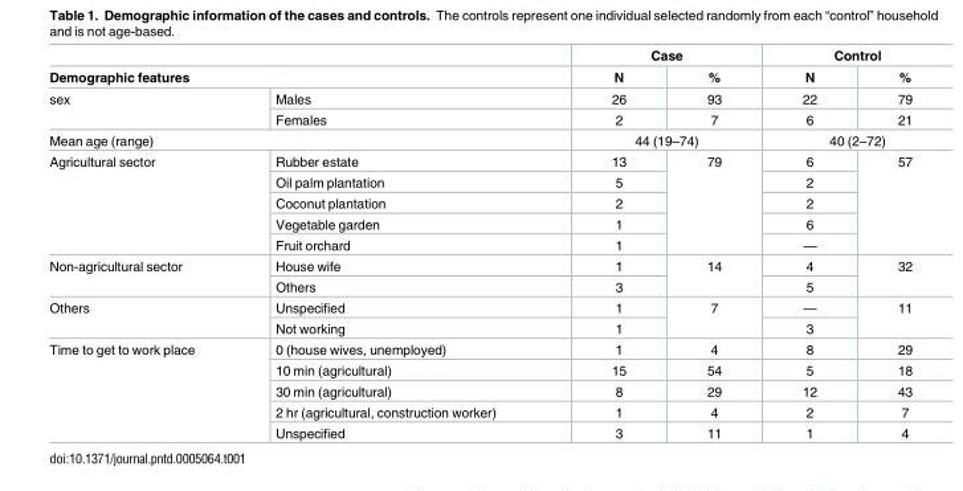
<table><thead><tr><td></td><td></td><td colspan="2">Case</td><td colspan="2">Control</td></tr><tr><td colspan="2">Demographic features</td><td>N</td><td>%</td><td>N</td><td>%</td></tr></thead><tbody><tr><td rowspan="2">sex</td><td>Males</td><td>26</td><td>93</td><td>22</td><td>79</td></tr><tr><td>Females</td><td>2</td><td>7</td><td>6</td><td>21</td></tr><tr><td colspan="2">Mean age (range)</td><td colspan="2">44 (19–74)</td><td colspan="2">40 (2–72)</td></tr><tr><td rowspan="5">Agricultural sector</td><td>Rubber estate</td><td>13</td><td rowspan="5">79</td><td>6</td><td rowspan="5">57</td></tr><tr><td>Oil palm plantation</td><td>5</td><td>2</td></tr><tr><td>Coconut plantation</td><td>2</td><td>2</td></tr><tr><td>Vegetable garden</td><td>1</td><td>6</td></tr><tr><td>Fruit orchard</td><td>1</td><td>—</td></tr><tr><td rowspan="2">Non-agricultural sector</td><td>House wife</td><td>1</td><td rowspan="2">14</td><td>4</td><td rowspan="2">32</td></tr><tr><td>Others</td><td>3</td><td>5</td></tr><tr><td rowspan="2">Others</td><td>Unspecified</td><td>1</td><td rowspan="2">7</td><td>—</td><td rowspan="2">11</td></tr><tr><td>Not working</td><td>1</td><td>3</td></tr><tr><td rowspan="5">Time to get to work place</td><td>0 (house wives, unemployed)</td><td>1</td><td>4</td><td>8</td><td>29</td></tr><tr><td>10 min (agricultural)</td><td>15</td><td>54</td><td>5</td><td>18</td></tr><tr><td>30 min (agricultural)</td><td>8</td><td>29</td><td>12</td><td>43</td></tr><tr><td>2 hr (agricultural, construction worker)</td><td>1</td><td>4</td><td>2</td><td>7</td></tr><tr><td>Unspecified</td><td>3</td><td>11</td><td>1</td><td>4</td></tr></tbody></table>